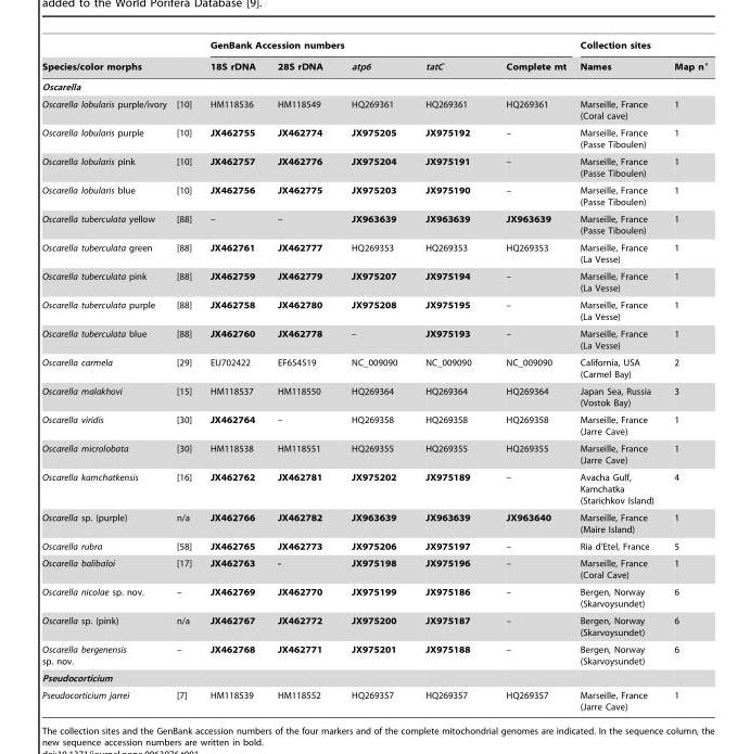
<table><thead><tr><td rowspan="2">Species/color morphs</td><td rowspan="2"></td><td colspan="5">GenBank Accession numbers</td><td colspan="2">Collection sites</td></tr><tr><td>18S rDNA</td><td>28S rDNA</td><td>atp6</td><td>tatC</td><td>Complete mt</td><td>Names</td><td>Map n°</td></tr></thead><tbody><tr><td colspan="9">Oscarella</td></tr><tr><td>Oscarella lobularis purple/ivory</td><td>[10]</td><td>HM118536</td><td>HM118549</td><td>HQ269361</td><td>HQ269361</td><td>HQ269361</td><td>Marseille, France (Coral cave)</td><td>1</td></tr><tr><td>Oscarella lobularis purple</td><td>[10]</td><td>JX462755</td><td>JX462774</td><td>JX975205</td><td>JX975192</td><td>–</td><td>Marseille, France (Passe Tiboulen)</td><td>1</td></tr><tr><td>Oscarella lobularis pink</td><td>[10]</td><td>JX462757</td><td>JX462776</td><td>JX975204</td><td>JX975191</td><td>–</td><td>Marseille, France (Passe Tiboulen)</td><td>1</td></tr><tr><td>Oscarella lobularis blue</td><td>[10]</td><td>JX462756</td><td>JX462775</td><td>JX975203</td><td>JX975190</td><td>–</td><td>Marseille, France (Passe Tiboulen)</td><td>1</td></tr><tr><td>Oscarella tuberculata yellow</td><td>[88]</td><td>–</td><td>–</td><td>JX963639</td><td>JX963639</td><td>JX963639</td><td>Marseille, France (Passe Tiboulen)</td><td>1</td></tr><tr><td>Oscarella tuberculata green</td><td>[88]</td><td>JX462761</td><td>JX462777</td><td>HQ269353</td><td>HQ269353</td><td>HQ269353</td><td>Marseille, France (La Vesse)</td><td>1</td></tr><tr><td>Oscarella tuberculata pink</td><td>[88]</td><td>JX462759</td><td>JX462779</td><td>JX975207</td><td>JX975194</td><td>–</td><td>Marseille, France (La Vesse)</td><td>1</td></tr><tr><td>Oscarella tuberculata purple</td><td>[88]</td><td>JX462758</td><td>JX462780</td><td>JX975208</td><td>JX975195</td><td>–</td><td>Marseille, France (La Vesse)</td><td>1</td></tr><tr><td>Oscarella tuberculata blue</td><td>[88]</td><td>JX462760</td><td>JX462778</td><td>–</td><td>JX975193</td><td>–</td><td>Marseille, France (La Vesse)</td><td>1</td></tr><tr><td>Oscarella carmela</td><td>[29]</td><td>EU702422</td><td>EF654519</td><td>NC_009090</td><td>NC_009090</td><td>NC_009090</td><td>California, USA (Carmel Bay)</td><td>2</td></tr><tr><td>Oscarella malakhovi</td><td>[15]</td><td>HM118537</td><td>HM118550</td><td>HQ269364</td><td>HQ269364</td><td>HQ269364</td><td>Japan Sea, Russia (Vostok Bay)</td><td>3</td></tr><tr><td>Oscarella viridis</td><td>[30]</td><td>JX462764</td><td>–</td><td>HQ269358</td><td>HQ269358</td><td>HQ269358</td><td>Marseille, France (Jarre Cave)</td><td>1</td></tr><tr><td>Oscarella microlobata</td><td>[30]</td><td>HM118538</td><td>HM118551</td><td>HQ269355</td><td>HQ269355</td><td>HQ269355</td><td>Marseille, France (Jarre Cave)</td><td>1</td></tr><tr><td>Oscarella kamchatkensis</td><td>[16]</td><td>JX462762</td><td>JX462781</td><td>JX975202</td><td>JX975189</td><td>–</td><td>Avacha Gulf, Kamchatka (Starichkov Island)</td><td>4</td></tr><tr><td>Oscarella sp. (purple)</td><td>n/a</td><td>JX462766</td><td>JX462782</td><td>JX963639</td><td>JX963639</td><td>JX963640</td><td>Marseille, France (Maire Island)</td><td>1</td></tr><tr><td>Oscarella rubra</td><td>[58]</td><td>JX462765</td><td>JX462773</td><td>JX975206</td><td>JX975197</td><td>–</td><td>Ria d’Etel, France</td><td>5</td></tr><tr><td>Oscarella balibaloi</td><td>[17]</td><td>JX462763</td><td>-</td><td>JX975198</td><td>JX975196</td><td>–</td><td>Marseille, France (Coral Cave)</td><td>1</td></tr><tr><td>Oscarella nicolae sp. nov.</td><td>–</td><td>JX462769</td><td>JX462770</td><td>JX975199</td><td>JX975186</td><td>–</td><td>Bergen, Norway (Skarvoysundet)</td><td>6</td></tr><tr><td>Oscarella sp. (pink)</td><td>n/a</td><td>JX462767</td><td>JX462772</td><td>JX975200</td><td>JX975187</td><td>–</td><td>Bergen, Norway (Skarvoysundet)</td><td>6</td></tr><tr><td>Oscarella bergenensis sp. nov.</td><td>–</td><td>JX462768</td><td>JX462771</td><td>JX975201</td><td>JX975188</td><td>–</td><td>Bergen, Norway (Skarvoysundet)</td><td>6</td></tr><tr><td colspan="9">Pseudocorticium</td></tr><tr><td>Pseudocorticium jarrei</td><td>[7]</td><td>HM118539</td><td>HM118552</td><td>HQ269357</td><td>HQ269357</td><td>HQ269357</td><td>Marseille, France (Jarre Cave)</td><td>1</td></tr></tbody></table>